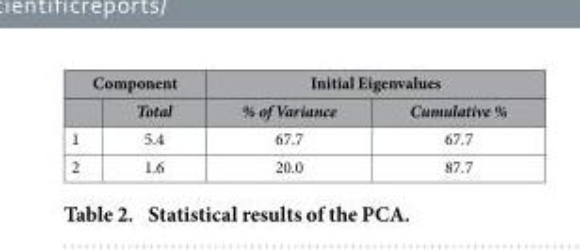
<table><thead><tr><td colspan="2">Component</td><td colspan="2">Initial Eigenvalues</td></tr><tr><td></td><td>Total</td><td>% of Variance</td><td>Cumulative %</td></tr></thead><tbody><tr><td>1</td><td>5.4</td><td>67.7</td><td>67.7</td></tr><tr><td>2</td><td>1.6</td><td>20.0</td><td>87.7</td></tr></tbody></table>